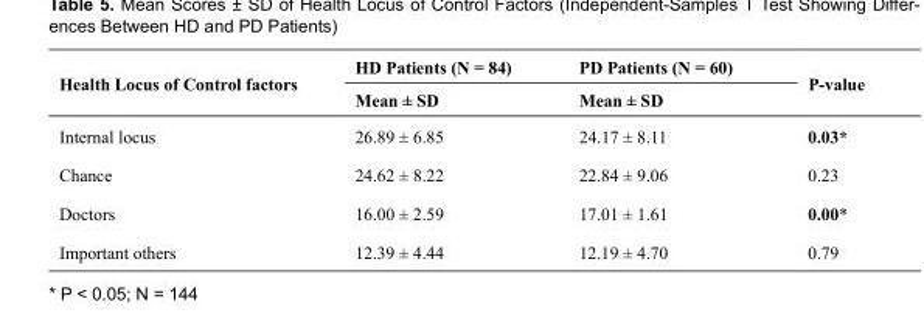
<table><thead><tr><td rowspan="2">Health Locus of Control factors</td><td rowspan="2">HD Patients (N = 84) Mean ± SD</td><td rowspan="2">PD Patients (N = 60) Mean ± SD</td><td rowspan="2">P-value</td></tr><tr></tr></thead><tbody><tr><td>Internal locus</td><td>26.89 ± 6.85</td><td>24.17 ± 8.11</td><td>0.03*</td></tr><tr><td>Chance</td><td>24.62 ± 8.22</td><td>22.84 ± 9.06</td><td>0.23</td></tr><tr><td>Doctors</td><td>16.00 ± 2.59</td><td>17.01 ± 1.61</td><td>0.00*</td></tr><tr><td>Important others</td><td>12.39 ± 4.44</td><td>12.19 ± 4.70</td><td>0.79</td></tr></tbody></table>